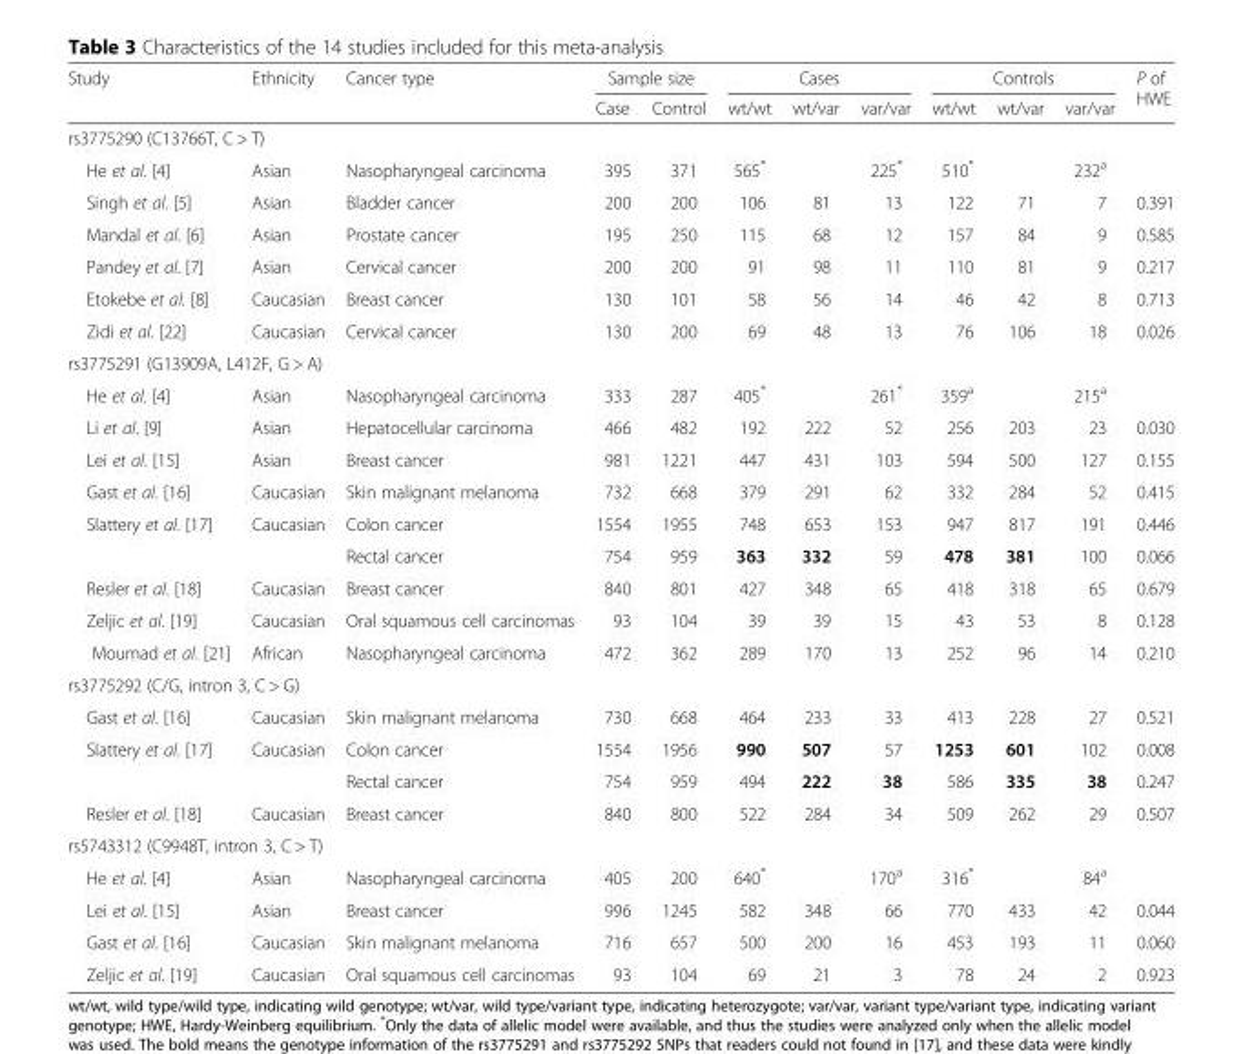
<table><thead><tr><td rowspan="2">Study</td><td rowspan="2">Ethnicity</td><td rowspan="2">Cancer type</td><td colspan="2">Sample size</td><td colspan="3">Cases</td><td colspan="3">Controls</td><td rowspan="2">P of HWE</td></tr><tr><td>Case</td><td>Control</td><td>wt/wt</td><td>wt/var</td><td>var/var</td><td>wt/wt</td><td>wt/var</td><td>var/var</td></tr></thead><tbody><tr><td colspan="12">rs3775290 (C13766T, C &gt; T)</td></tr><tr><td>He et al. [4]</td><td>Asian</td><td>Nasopharyngeal carcinoma</td><td>395</td><td>371</td><td>565*</td><td></td><td>225*</td><td>510*</td><td></td><td>232<sup>a</sup></td><td></td></tr><tr><td>Singh et al. [5]</td><td>Asian</td><td>Bladder cancer</td><td>200</td><td>200</td><td>106</td><td>81</td><td>13</td><td>122</td><td>71</td><td>7</td><td>0.391</td></tr><tr><td>Mandal et al. [6]</td><td>Asian</td><td>Prostate cancer</td><td>195</td><td>250</td><td>115</td><td>68</td><td>12</td><td>157</td><td>84</td><td>9</td><td>0.585</td></tr><tr><td>Pandey et al. [7]</td><td>Asian</td><td>Cervical cancer</td><td>200</td><td>200</td><td>91</td><td>98</td><td>11</td><td>110</td><td>81</td><td>9</td><td>0.217</td></tr><tr><td>Etokebe et al. [8]</td><td>Caucasian</td><td>Breast cancer</td><td>130</td><td>101</td><td>58</td><td>56</td><td>14</td><td>46</td><td>42</td><td>8</td><td>0.713</td></tr><tr><td>Zidi et al. [22]</td><td>Caucasian</td><td>Cervical cancer</td><td>130</td><td>200</td><td>69</td><td>48</td><td>13</td><td>76</td><td>106</td><td>18</td><td>0.026</td></tr><tr><td colspan="12">rs3775291 (G13909A, L412F, G &gt; A)</td></tr><tr><td>He et al. [4]</td><td>Asian</td><td>Nasopharyngeal carcinoma</td><td>333</td><td>287</td><td>405*</td><td></td><td>261*</td><td>359<sup>a</sup></td><td></td><td>215<sup>a</sup></td><td></td></tr><tr><td>Li et al. [9]</td><td>Asian</td><td>Hepatocellular carcinoma</td><td>466</td><td>482</td><td>192</td><td>222</td><td>52</td><td>256</td><td>203</td><td>23</td><td>0.030</td></tr><tr><td>Lei et al. [15]</td><td>Asian</td><td>Breast cancer</td><td>981</td><td>1221</td><td>447</td><td>431</td><td>103</td><td>594</td><td>500</td><td>127</td><td>0.155</td></tr><tr><td>Gast et al. [16]</td><td>Caucasian</td><td>Skin malignant melanoma</td><td>732</td><td>668</td><td>379</td><td>291</td><td>62</td><td>332</td><td>284</td><td>52</td><td>0.415</td></tr><tr><td rowspan="2">Slattery et al. [17]</td><td>Caucasian</td><td>Colon cancer</td><td>1554</td><td>1955</td><td>748</td><td>653</td><td>153</td><td>947</td><td>817</td><td>191</td><td>0.446</td></tr><tr><td></td><td>Rectal cancer</td><td>754</td><td>959</td><td>363</td><td>332</td><td>59</td><td>478</td><td>381</td><td>100</td><td>0.066</td></tr><tr><td>Resler et al. [18]</td><td>Caucasian</td><td>Breast cancer</td><td>840</td><td>801</td><td>427</td><td>348</td><td>65</td><td>418</td><td>318</td><td>65</td><td>0.679</td></tr><tr><td>Zeljic et al. [19]</td><td>Caucasian</td><td>Oral squamous cell carcinomas</td><td>93</td><td>104</td><td>39</td><td>39</td><td>15</td><td>43</td><td>53</td><td>8</td><td>0.128</td></tr><tr><td>Moumad et al. [21]</td><td>African</td><td>Nasopharyngeal carcinoma</td><td>472</td><td>362</td><td>289</td><td>170</td><td>13</td><td>252</td><td>96</td><td>14</td><td>0.210</td></tr><tr><td colspan="12">rs3775292 (C/G, intron 3, C &gt; G)</td></tr><tr><td>Gast et al. [16]</td><td>Caucasian</td><td>Skin malignant melanoma</td><td>730</td><td>668</td><td>464</td><td>233</td><td>33</td><td>413</td><td>228</td><td>27</td><td>0.521</td></tr><tr><td rowspan="2">Slattery et al. [17]</td><td>Caucasian</td><td>Colon cancer</td><td>1554</td><td>1956</td><td>990</td><td>507</td><td>57</td><td>1253</td><td>601</td><td>102</td><td>0.008</td></tr><tr><td></td><td>Rectal cancer</td><td>754</td><td>959</td><td>494</td><td>222</td><td>38</td><td>586</td><td>335</td><td>38</td><td>0.247</td></tr><tr><td>Resler et al. [18]</td><td>Caucasian</td><td>Breast cancer</td><td>840</td><td>800</td><td>522</td><td>284</td><td>34</td><td>509</td><td>262</td><td>29</td><td>0.507</td></tr><tr><td colspan="12">rs5743312 (C9948T, intron 3, C &gt; T)</td></tr><tr><td>He et al. [4]</td><td>Asian</td><td>Nasopharyngeal carcinoma</td><td>405</td><td>200</td><td>640*</td><td></td><td>170<sup>a</sup></td><td>316*</td><td></td><td>84<sup>a</sup></td><td></td></tr><tr><td>Lei et al. [15]</td><td>Asian</td><td>Breast cancer</td><td>996</td><td>1245</td><td>582</td><td>348</td><td>66</td><td>770</td><td>433</td><td>42</td><td>0.044</td></tr><tr><td>Gast et al. [16]</td><td>Caucasian</td><td>Skin malignant melanoma</td><td>716</td><td>657</td><td>500</td><td>200</td><td>16</td><td>453</td><td>193</td><td>11</td><td>0.060</td></tr><tr><td>Zeljic et al. [19]</td><td>Caucasian</td><td>Oral squamous cell carcinomas</td><td>93</td><td>104</td><td>69</td><td>21</td><td>3</td><td>78</td><td>24</td><td>2</td><td>0.923</td></tr></tbody></table>